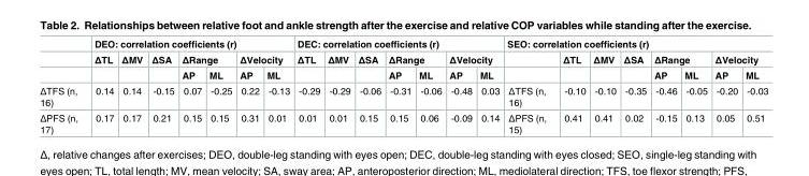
<table><thead><tr><td rowspan="3"></td><td colspan="7">DEO: correlation coefficients (r)</td><td colspan="7">DEC: correlation coefficients (r)</td><td colspan="8">SEO: correlation coefficients (r)</td></tr><tr><td rowspan="2">ΔTL</td><td rowspan="2">ΔMV</td><td rowspan="2">ΔSA</td><td colspan="2">ΔRange</td><td colspan="2">ΔVelocity</td><td rowspan="2">ΔTL</td><td rowspan="2">ΔMV</td><td rowspan="2">ΔSA</td><td colspan="2">ΔRange</td><td colspan="2">ΔVelocity</td><td rowspan="2"></td><td rowspan="2">ΔTL</td><td rowspan="2">ΔMV</td><td rowspan="2">ΔSA</td><td colspan="2">ΔRange</td><td colspan="2">ΔVelocity</td></tr><tr><td>AP</td><td>ML</td><td>AP</td><td>ML</td><td>AP</td><td>ML</td><td>AP</td><td>ML</td><td>AP</td><td>ML</td><td>AP</td><td>ML</td></tr></thead><tbody><tr><td>ΔTFS (n, 16)</td><td>0.14</td><td>0.14</td><td>-0.15</td><td>0.07</td><td>-0.25</td><td>0.22</td><td>-0.13</td><td>-0.29</td><td>-0.29</td><td>-0.06</td><td>-0.31</td><td>-0.06</td><td>-0.48</td><td>0.03</td><td>ΔTFS (n, 16)</td><td>-0.10</td><td>-0.10</td><td>-0.35</td><td>-0.46</td><td>-0.05</td><td>-0.20</td><td>-0.03</td></tr><tr><td>ΔPFS (n, 17)</td><td>0.17</td><td>0.17</td><td>0.21</td><td>0.15</td><td>0.15</td><td>0.31</td><td>0.01</td><td>0.01</td><td>0.01</td><td>0.15</td><td>0.15</td><td>0.06</td><td>-0.09</td><td>0.14</td><td>ΔPFS (n, 15)</td><td>0.41</td><td>0.41</td><td>0.02</td><td>-0.15</td><td>0.13</td><td>0.05</td><td>0.51</td></tr></tbody></table>